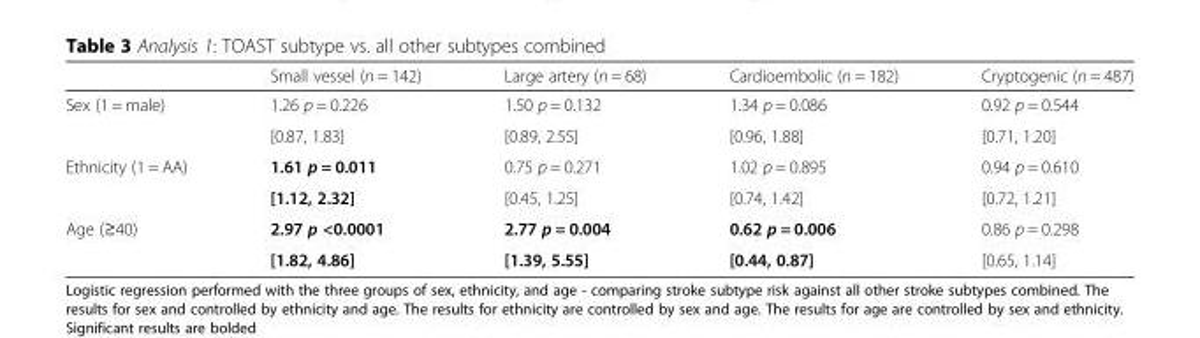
<table><thead><tr><td></td><td>Small vessel (n = 142)</td><td>Large artery (n = 68)</td><td>Cardioembolic (n = 182)</td><td>Cryptogenic (n = 487)</td></tr></thead><tbody><tr><td rowspan="2">Sex (1 = male)</td><td>1.26 p = 0.226</td><td>1.50 p = 0.132</td><td>1.34 p = 0.086</td><td>0.92 p = 0.544</td></tr><tr><td>[0.87, 1.83]</td><td>[0.89, 2.55]</td><td>[0.96, 1.88]</td><td>[0.71, 1.20]</td></tr><tr><td rowspan="2">Ethnicity (1 = AA)</td><td>1.61 p = 0.011</td><td>0.75 p = 0.271</td><td>1.02 p = 0.895</td><td>0.94 p = 0.610</td></tr><tr><td>[1.12, 2.32]</td><td>[0.45, 1.25]</td><td>[0.74, 1.42]</td><td>[0.72, 1.21]</td></tr><tr><td rowspan="2">Age (≥40)</td><td>2.97 p &lt;0.0001</td><td>2.77 p = 0.004</td><td>0.62 p = 0.006</td><td>0.86 p = 0.298</td></tr><tr><td>[1.82, 4.86]</td><td>[1.39, 5.55]</td><td>[0.44, 0.87]</td><td>[0.65, 1.14]</td></tr></tbody></table>